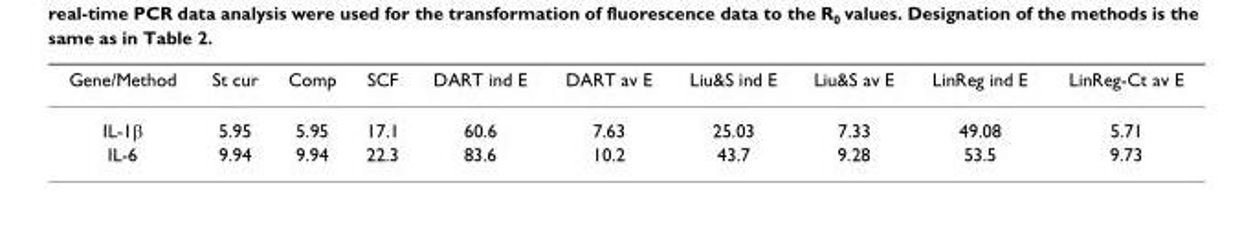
<table><thead><tr><td>Gene/Method</td><td>St cur</td><td>Comp</td><td>SCF</td><td>DART ind E</td><td>DART av E</td><td>Liu&amp;S ind E</td><td>Liu&amp;S av E</td><td>LinReg ind E</td><td>LinReg-Ct av E</td></tr></thead><tbody><tr><td>IL-1β</td><td>5.95</td><td>5.95</td><td>17.1</td><td>60.6</td><td>7.63</td><td>25.03</td><td>7.33</td><td>49.08</td><td>5.71</td></tr><tr><td>IL-6</td><td>9.94</td><td>9.94</td><td>22.3</td><td>83.6</td><td>10.2</td><td>43.7</td><td>9.28</td><td>53.5</td><td>9.73</td></tr></tbody></table>